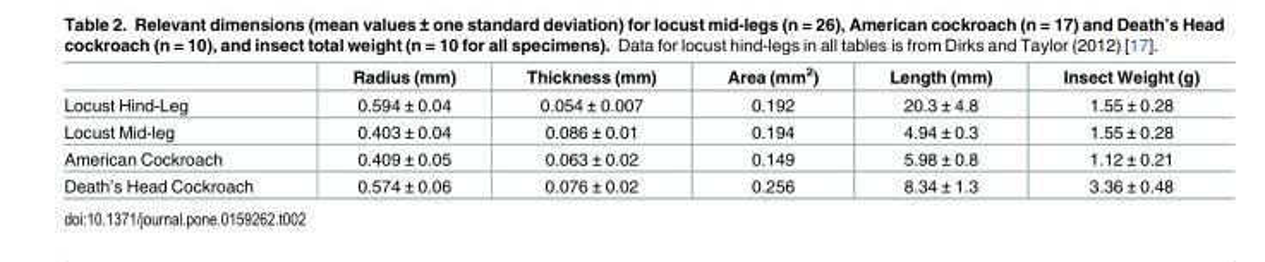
<table><thead><tr><td></td><td>Radius (mm)</td><td>Thickness (mm)</td><td>Area (mm<sup>2</sup>)</td><td>Length (mm)</td><td>Insect Weight (g)</td></tr></thead><tbody><tr><td>Locust Hind-Leg</td><td>0.594 ± 0.04</td><td>0.054 ± 0.007</td><td>0.192</td><td>20.3 ± 4.8</td><td>1.55 ± 0.28</td></tr><tr><td>Locust Mid-leg</td><td>0.403 ± 0.04</td><td>0.086 ± 0.01</td><td>0.194</td><td>4.94 ± 0.3</td><td>1.55 ± 0.28</td></tr><tr><td>American Cockroach</td><td>0.409 ± 0.05</td><td>0.063 ± 0.02</td><td>0.149</td><td>5.98 ± 0.8</td><td>1.12 ± 0.21</td></tr><tr><td>Death’s Head Cockroach</td><td>0.574 ± 0.06</td><td>0.076 ± 0.02</td><td>0.256</td><td>8.34 ± 1.3</td><td>3.36 ± 0.48</td></tr></tbody></table>